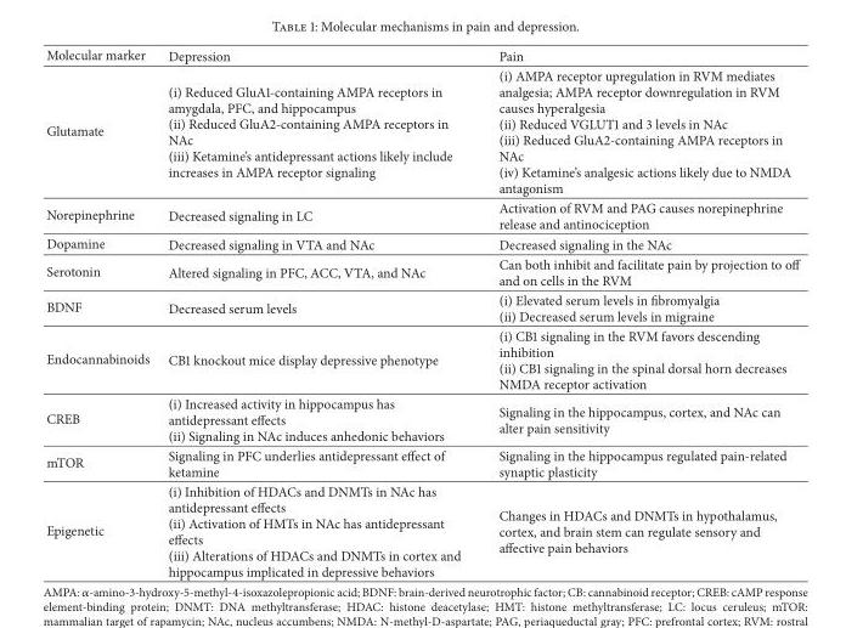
<table><thead><tr><td>Molecular marker</td><td>Depression</td><td>Pain</td></tr></thead><tbody><tr><td>Glutamate</td><td>(i) Reduced GluA1-containing AMPA receptors in amygdala, PFC, and hippocampus (ii) Reduced GluA2-containing AMPA receptors in NAc (iii) Ketamine’s antidepressant actions likely include increases in AMPA receptor signaling</td><td>(i) AMPA receptor upregulation in RVM mediates analgesia; AMPA receptor downregulation in RVM causes hyperalgesia (ii) Reduced VGLUT1 and 3 levels in NAc (iii) Reduced GluA2-containing AMPA receptors in NAc (iv) Ketamine’s analgesic actions likely due to NMDA antagonism</td></tr><tr><td>Norepinephrine</td><td>Decreased signaling in LC</td><td>Activation of RVM and PAG causes norepinephrine release and antinociception</td></tr><tr><td>Dopamine</td><td>Decreased signaling in VTA and NAc</td><td>Decreased signaling in the NAc</td></tr><tr><td>Serotonin</td><td>Altered signaling in PFC, ACC, VTA, and NAc</td><td>Can both inhibit and facilitate pain by projection to off and on cells in the RVM</td></tr><tr><td>BDNF</td><td>Decreased serum levels</td><td>(i) Elevated serum levels in fibromyalgia (ii) Decreased serum levels in migraine</td></tr><tr><td>Endocannabinoids</td><td>CB1 knockout mice display depressive phenotype</td><td>(i) CB1 signaling in the RVM favors descending inhibition (ii) CB1 signaling in the spinal dorsal horn decreases NMDA receptor activation</td></tr><tr><td>CREB</td><td>(i) Increased activity in hippocampus has antidepressant effects (ii) Signaling in NAc induces anhedonic behaviors</td><td>Signaling in the hippocampus, cortex, and NAc can alter pain sensitivity</td></tr><tr><td>mTOR</td><td>Signaling in PFC underlies antidepressant effect of ketamine</td><td>Signaling in the hippocampus regulated pain-related synaptic plasticity</td></tr><tr><td>Epigenetic</td><td>(i) Inhibition of HDACs and DNMTs in NAc has antidepressant effects (ii) Activation of HMTs in NAc has antidepressant effects (iii) Alterations of HDACs and DNMTs in cortex and hippocampus implicated in depressive behaviors</td><td>Changes in HDACs and DNMTs in hypothalamus, cortex, and brain stem can regulate sensory and affective pain behaviors</td></tr></tbody></table>